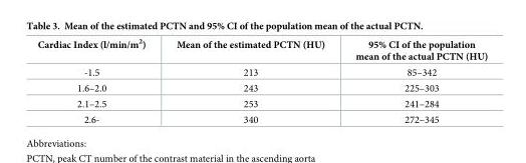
<table><thead><tr><td>Cardiac Index (l/min/m<sup>2</sup>)</td><td>Mean of the estimated PCTN (HU)</td><td>95% CI of the population mean of the actual PCTN (HU)</td></tr></thead><tbody><tr><td>-1.5</td><td>213</td><td>85–342</td></tr><tr><td>1.6–2.0</td><td>243</td><td>225–303</td></tr><tr><td>2.1–2.5</td><td>253</td><td>241–284</td></tr><tr><td>2.6-</td><td>340</td><td>272–345</td></tr></tbody></table>